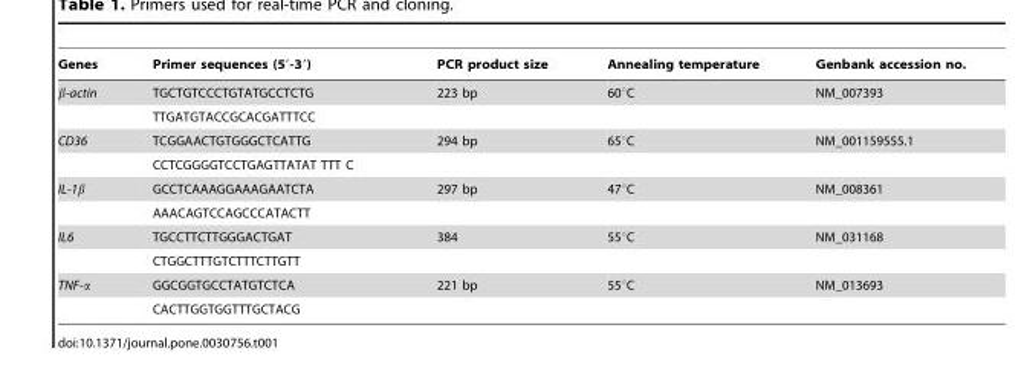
<table><thead><tr><td>Genes</td><td>Primer sequences (5′-3′)</td><td>PCR product size</td><td>Annealing temperature</td><td>Genbank accession no.</td></tr></thead><tbody><tr><td rowspan="2">β-actin</td><td>TGCTGTCCCTGTATGCCTCTG</td><td>223 bp</td><td>60°C</td><td>NM_007393</td></tr><tr><td>TTGATGTACCGCACGATTTCC</td><td></td><td></td><td></td></tr><tr><td rowspan="2">CD36</td><td>TCGGAACTGTGGGCTCATTG</td><td>294 bp</td><td>65°C</td><td>NM_001159555.1</td></tr><tr><td>CCTCGGGGTCCTGAGTTATAT TTT C</td><td></td><td></td><td></td></tr><tr><td rowspan="2">IL-1β</td><td>GCCTCAAAGGAAAGAATCTA</td><td>297 bp</td><td>47°C</td><td>NM_008361</td></tr><tr><td>AAACAGTCCAGCCCATACTT</td><td></td><td></td><td></td></tr><tr><td rowspan="2">IL6</td><td>TGCCTTCTTGGGACTGAT</td><td>384</td><td>55°C</td><td>NM_031168</td></tr><tr><td>CTGGCTTTGTCTTTCTTGTT</td><td></td><td></td><td></td></tr><tr><td rowspan="2">TNF-α</td><td>GGCGGTGCCTATGTCTCA</td><td>221 bp</td><td>55°C</td><td>NM_013693</td></tr><tr><td>CACTTGGTGGTTTGCTACG</td><td></td><td></td><td></td></tr></tbody></table>